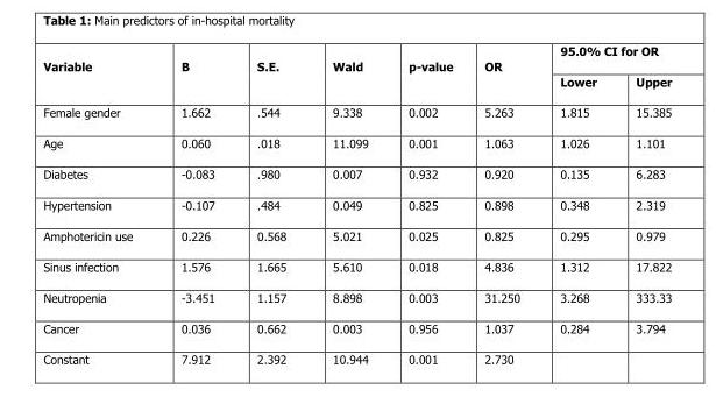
<table><thead><tr><td rowspan="2">Variable</td><td rowspan="2">B</td><td rowspan="2">S.E.</td><td rowspan="2">Wald</td><td rowspan="2">p-value</td><td rowspan="2">OR</td><td colspan="2">95.0% CI for OR</td></tr><tr><td>Lower</td><td>Upper</td></tr></thead><tbody><tr><td>Female gender</td><td>1.662</td><td>.544</td><td>9.338</td><td>0.002</td><td>5.263</td><td>1.815</td><td>15.385</td></tr><tr><td>Age</td><td>0.060</td><td>.018</td><td>11.099</td><td>0.001</td><td>1.063</td><td>1.026</td><td>1.101</td></tr><tr><td>Diabetes</td><td>-0.083</td><td>.980</td><td>0.007</td><td>0.932</td><td>0.920</td><td>0.135</td><td>6.283</td></tr><tr><td>Hypertension</td><td>-0.107</td><td>.484</td><td>0.049</td><td>0.825</td><td>0.898</td><td>0.348</td><td>2.319</td></tr><tr><td>Amphotericin use</td><td>0.226</td><td>0.568</td><td>5.021</td><td>0.025</td><td>0.825</td><td>0.295</td><td>0.979</td></tr><tr><td>Sinus infection</td><td>1.576</td><td>1.665</td><td>5.610</td><td>0.018</td><td>4.836</td><td>1.312</td><td>17.822</td></tr><tr><td>Neutropenia</td><td>-3.451</td><td>1.157</td><td>8.898</td><td>0.003</td><td>31.250</td><td>3.268</td><td>333.33</td></tr><tr><td>Cancer</td><td>0.036</td><td>0.662</td><td>0.003</td><td>0.956</td><td>1.037</td><td>0.284</td><td>3.794</td></tr><tr><td>Constant</td><td>7.912</td><td>2.392</td><td>10.944</td><td>0.001</td><td>2.730</td><td></td><td></td></tr></tbody></table>